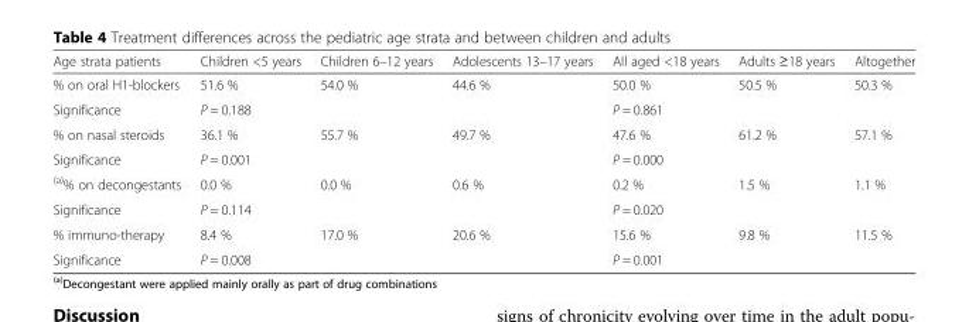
<table><thead><tr><td>Age strata patients</td><td>Children &lt;5 years</td><td>Children 6–12 years</td><td>Adolescents 13–17 years</td><td>All aged &lt;18 years</td><td>Adults ≥18 years</td><td>Altogether</td></tr></thead><tbody><tr><td>% on oral H1-blockers</td><td>51.6 %</td><td>54.0 %</td><td>44.6 %</td><td>50.0 %</td><td>50.5 %</td><td>50.3 %</td></tr><tr><td>Significance</td><td colspan="3">P = 0.188</td><td colspan="2">P = 0.861</td><td></td></tr><tr><td>% on nasal steroids</td><td>36.1 %</td><td>55.7 %</td><td>49.7 %</td><td>47.6 %</td><td>61.2 %</td><td>57.1 %</td></tr><tr><td>Significance</td><td colspan="3">P = 0.001</td><td colspan="2">P = 0.000</td><td></td></tr><tr><td><sup>(a)</sup>% on decongestants</td><td>0.0 %</td><td>0.0 %</td><td>0.6 %</td><td>0.2 %</td><td>1.5 %</td><td>1.1 %</td></tr><tr><td>Significance</td><td colspan="3">P = 0.114</td><td colspan="2">P = 0.020</td><td></td></tr><tr><td>% immuno-therapy</td><td>8.4 %</td><td>17.0 %</td><td>20.6 %</td><td>15.6 %</td><td>9.8 %</td><td>11.5 %</td></tr><tr><td>Significance</td><td colspan="3">P = 0.008</td><td colspan="2">P = 0.001</td><td></td></tr></tbody></table>